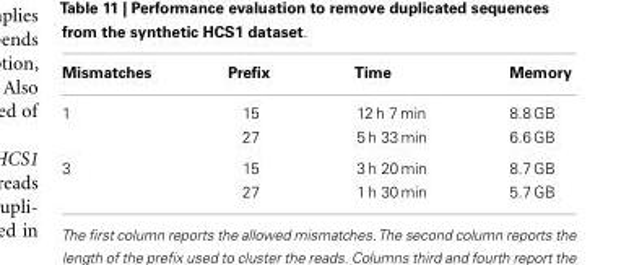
<table><thead><tr><td>Mismatches</td><td>Prefix</td><td>Time</td><td>Memory</td></tr></thead><tbody><tr><td rowspan="2">1</td><td>15</td><td>12 h 7 min</td><td>8.8 GB</td></tr><tr><td>27</td><td>5 h 33 min</td><td>6.6 GB</td></tr><tr><td rowspan="2">3</td><td>15</td><td>3 h 20 min</td><td>8.7 GB</td></tr><tr><td>27</td><td>1 h 30 min</td><td>5.7 GB</td></tr></tbody></table>